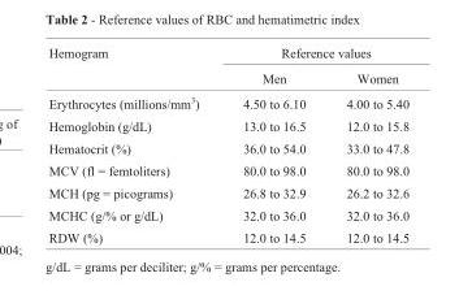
<table><thead><tr><td rowspan="2">Hemogram</td><td colspan="2">Reference values</td></tr><tr><td>Men</td><td>Women</td></tr></thead><tbody><tr><td>Erythrocytes (millions/mm<sup>3</sup>)</td><td>4.50 to 6.10</td><td>4.00 to 5.40</td></tr><tr><td>Hemoglobin (g/dL)</td><td>13.0 to 16.5</td><td>12.0 to 15.8</td></tr><tr><td>Hematocrit (%)</td><td>36.0 to 54.0</td><td>33.0 to 47.8</td></tr><tr><td>MCV (fl = femtoliters)</td><td>80.0 to 98.0</td><td>80.0 to 98.0</td></tr><tr><td>MCH (pg = picograms)</td><td>26.8 to 32.9</td><td>26.2 to 32.6</td></tr><tr><td>MCHC (g/% or g/dL)</td><td>32.0 to 36.0</td><td>32.0 to 36.0</td></tr><tr><td>RDW (%)</td><td>12.0 to 14.5</td><td>12.0 to 14.5</td></tr></tbody></table>